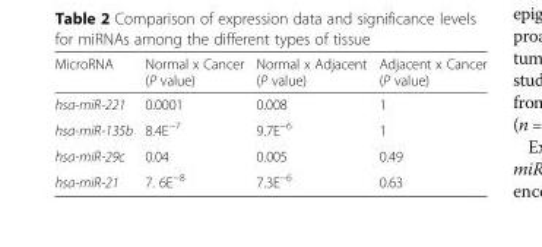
<table><thead><tr><td>MicroRNA</td><td>Normal x Cancer (P value)</td><td>Normal x Adjacent (P value)</td><td>Adjacent x Cancer (P value)</td></tr></thead><tbody><tr><td>hsa-miR-221</td><td>0.0001</td><td>0.008</td><td>1</td></tr><tr><td>hsa-miR-135b</td><td>8.4E<sup>−7</sup></td><td>9.7E<sup>−6</sup></td><td>1</td></tr><tr><td>hsa-miR-29c</td><td>0.04</td><td>0.005</td><td>0.49</td></tr><tr><td>hsa-miR-21</td><td>7. 6E<sup>−8</sup></td><td>7.3E<sup>−6</sup></td><td>0.63</td></tr></tbody></table>